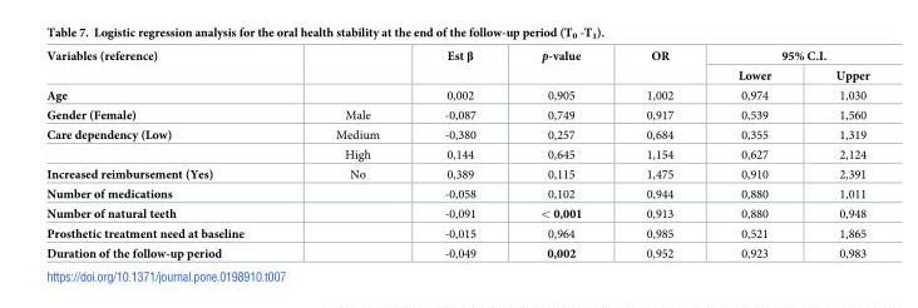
<table><thead><tr><td rowspan="2">Variables (reference)</td><td rowspan="2"></td><td rowspan="2">Est β</td><td rowspan="2">p-value</td><td rowspan="2">OR</td><td colspan="2">95% C.I.</td></tr><tr><td>Lower</td><td>Upper</td></tr></thead><tbody><tr><td>Age</td><td></td><td>0,002</td><td>0,905</td><td>1,002</td><td>0,974</td><td>1,030</td></tr><tr><td>Gender (Female)</td><td>Male</td><td>-0,087</td><td>0,749</td><td>0,917</td><td>0,539</td><td>1,560</td></tr><tr><td rowspan="2">Care dependency (Low)</td><td>Medium</td><td>-0,380</td><td>0,257</td><td>0,684</td><td>0,355</td><td>1,319</td></tr><tr><td>High</td><td>0,144</td><td>0,645</td><td>1,154</td><td>0,627</td><td>2,124</td></tr><tr><td>Increased reimbursement (Yes)</td><td>No</td><td>0,389</td><td>0,115</td><td>1,475</td><td>0,910</td><td>2,391</td></tr><tr><td>Number of medications</td><td></td><td>-0,058</td><td>0,102</td><td>0,944</td><td>0,880</td><td>1,011</td></tr><tr><td>Number of natural teeth</td><td></td><td>-0,091</td><td>&lt; 0,001</td><td>0,913</td><td>0,880</td><td>0,948</td></tr><tr><td>Prosthetic treatment need at baseline</td><td></td><td>-0,015</td><td>0,964</td><td>0,985</td><td>0,521</td><td>1,865</td></tr><tr><td>Duration of the follow-up period</td><td></td><td>-0,049</td><td>0,002</td><td>0,952</td><td>0,923</td><td>0,983</td></tr></tbody></table>